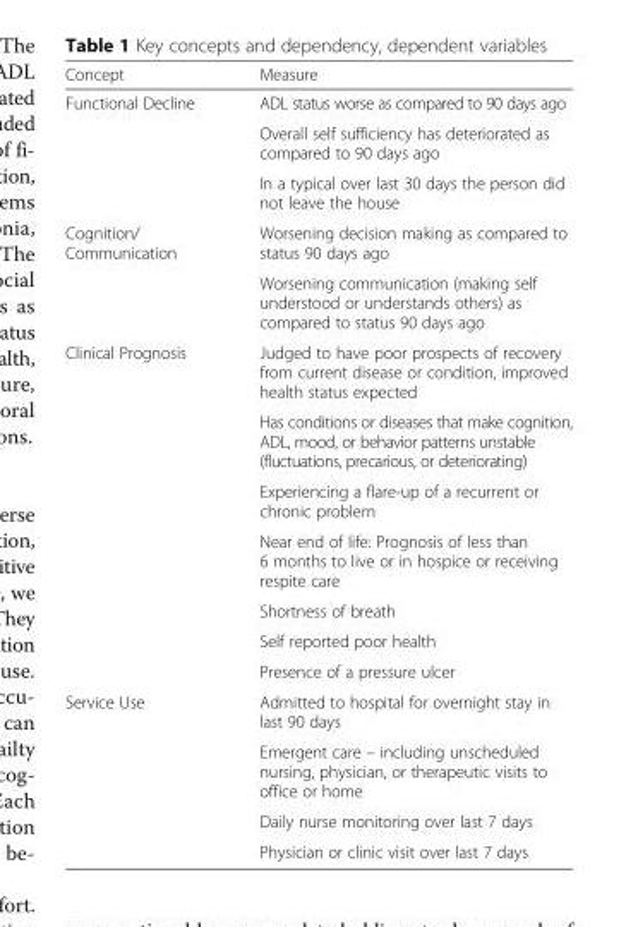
<table><thead><tr><td>Concept</td><td>Measure</td></tr></thead><tbody><tr><td rowspan="3">Functional Decline</td><td>ADL status worse as compared to 90 days ago</td></tr><tr><td>Overall self sufficiency has deteriorated as compared to 90 days ago</td></tr><tr><td>In a typical over last 30 days the person did not leave the house</td></tr><tr><td rowspan="2">Cognition/ Communication</td><td>Worsening decision making as compared to status 90 days ago</td></tr><tr><td>Worsening communication (making self understood or understands others) as compared to status 90 days ago</td></tr><tr><td rowspan="7">Clinical Prognosis</td><td>Judged to have poor prospects of recovery from current disease or condition, improved health status expected</td></tr><tr><td>Has conditions or diseases that make cognition, ADL, mood, or behavior patterns unstable (fluctuations, precarious, or deteriorating)</td></tr><tr><td>Experiencing a flare-up of a recurrent or chronic problem</td></tr><tr><td>Near end of life: Prognosis of less than 6 months to live or in hospice or receiving respite care</td></tr><tr><td>Shortness of breath</td></tr><tr><td>Self reported poor health</td></tr><tr><td>Presence of a pressure ulcer</td></tr><tr><td rowspan="4">Service Use</td><td>Admitted to hospital for overnight stay in last 90 days</td></tr><tr><td>Emergent care – including unscheduled nursing, physician, or therapeutic visits to office or home</td></tr><tr><td>Daily nurse monitoring over last 7 days</td></tr><tr><td>Physician or clinic visit over last 7 days</td></tr></tbody></table>